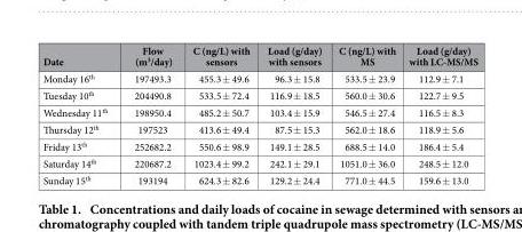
<table><thead><tr><td>Date</td><td>Flow (m<sup>3</sup>/day)</td><td>C (ng/L) with sensors</td><td>Load (g/day) with sensors</td><td>C (ng/L) with MS</td><td>Load (g/day) with LC-MS/MS</td></tr></thead><tbody><tr><td>Monday 16<sup>th</sup></td><td>197493.3</td><td>455.3 ± 49.6</td><td>96.3 ± 15.8</td><td>533.5 ± 23.9</td><td>112.9 ± 7.1</td></tr><tr><td>Tuesday 10<sup>th</sup></td><td>204490.8</td><td>533.5 ± 72.4</td><td>116.9 ± 18.5</td><td>560.0 ± 30.6</td><td>122.7 ± 9.5</td></tr><tr><td>Wednesday 11<sup>th</sup></td><td>198950.4</td><td>485.2 ± 50.7</td><td>103.4 ± 15.9</td><td>546.5 ± 27.4</td><td>116.5 ± 8.3</td></tr><tr><td>Thursday 12<sup>th</sup></td><td>197523</td><td>413.6 ± 49.4</td><td>87.5 ± 15.3</td><td>562.0 ± 18.6</td><td>118.9 ± 5.6</td></tr><tr><td>Friday 13<sup>th</sup></td><td>252682.2</td><td>550.6 ± 98.9</td><td>149.1 ± 28.5</td><td>688.5 ± 14.0</td><td>186.4 ± 5.4</td></tr><tr><td>Saturday 14<sup>th</sup></td><td>220687.2</td><td>1023.4 ± 99.2</td><td>242.1 ± 29.1</td><td>1051.0 ± 36.0</td><td>248.5 ± 12.0</td></tr><tr><td>Sunday 15<sup>th</sup></td><td>193194</td><td>624.3 ± 82.6</td><td>129.2 ± 24.4</td><td>771.0 ± 44.5</td><td>159.6 ± 13.0</td></tr></tbody></table>